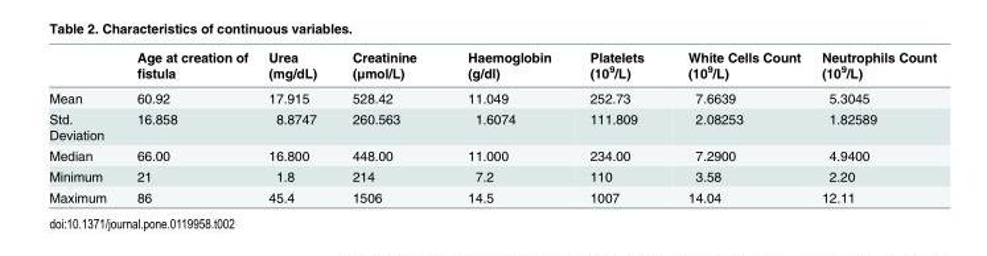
<table><thead><tr><td></td><td>Age at creation of fistula</td><td>Urea (mg/dL)</td><td>Creatinine (μmol/L)</td><td>Haemoglobin (g/dl)</td><td>Platelets (10<sup>9</sup>/L)</td><td>White Cells Count (10<sup>9</sup>/L)</td><td>Neutrophils Count (10<sup>9</sup>/L)</td></tr></thead><tbody><tr><td>Mean</td><td>60.92</td><td>17.915</td><td>528.42</td><td>11.049</td><td>252.73</td><td>7.6639</td><td>5.3045</td></tr><tr><td>Std. Deviation</td><td>16.858</td><td>8.8747</td><td>260.563</td><td>1.6074</td><td>111.809</td><td>2.08253</td><td>1.82589</td></tr><tr><td>Median</td><td>66.00</td><td>16.800</td><td>448.00</td><td>11.000</td><td>234.00</td><td>7.2900</td><td>4.9400</td></tr><tr><td>Minimum</td><td>21</td><td>1.8</td><td>214</td><td>7.2</td><td>110</td><td>3.58</td><td>2.20</td></tr><tr><td>Maximum</td><td>86</td><td>45.4</td><td>1506</td><td>14.5</td><td>1007</td><td>14.04</td><td>12.11</td></tr></tbody></table>